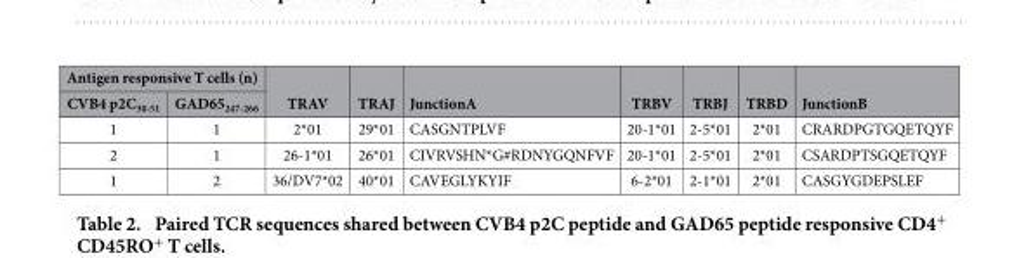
<table><thead><tr><td colspan="2">Antigen responsive T cells (n)</td><td rowspan="2">TRAV</td><td rowspan="2">TRAJ</td><td rowspan="2">JunctionA</td><td rowspan="2">TRBV</td><td rowspan="2">TRBJ</td><td rowspan="2">TRBD</td><td rowspan="2">JunctionB</td></tr><tr><td>CVB4 p2C<sub>30-51</sub></td><td>GAD65<sub>247-266</sub></td></tr></thead><tbody><tr><td>1</td><td>1</td><td>2*01</td><td>29*01</td><td>CASGNTPLVF</td><td>20-1*01</td><td>2-5*01</td><td>2*01</td><td>CRARDPGTGQETQYF</td></tr><tr><td>2</td><td>1</td><td>26-1*01</td><td>26*01</td><td>CIVRVSHN*G#RDNYGQNFVF</td><td>20-1*01</td><td>2-5*01</td><td>2*01</td><td>CSARDPTSGQETQYF</td></tr><tr><td>1</td><td>2</td><td>36/DV7*02</td><td>40*01</td><td>CAVEGLYKYIF</td><td>6-2*01</td><td>2-1*01</td><td>2*01</td><td>CASGYGDEPSLEF</td></tr></tbody></table>